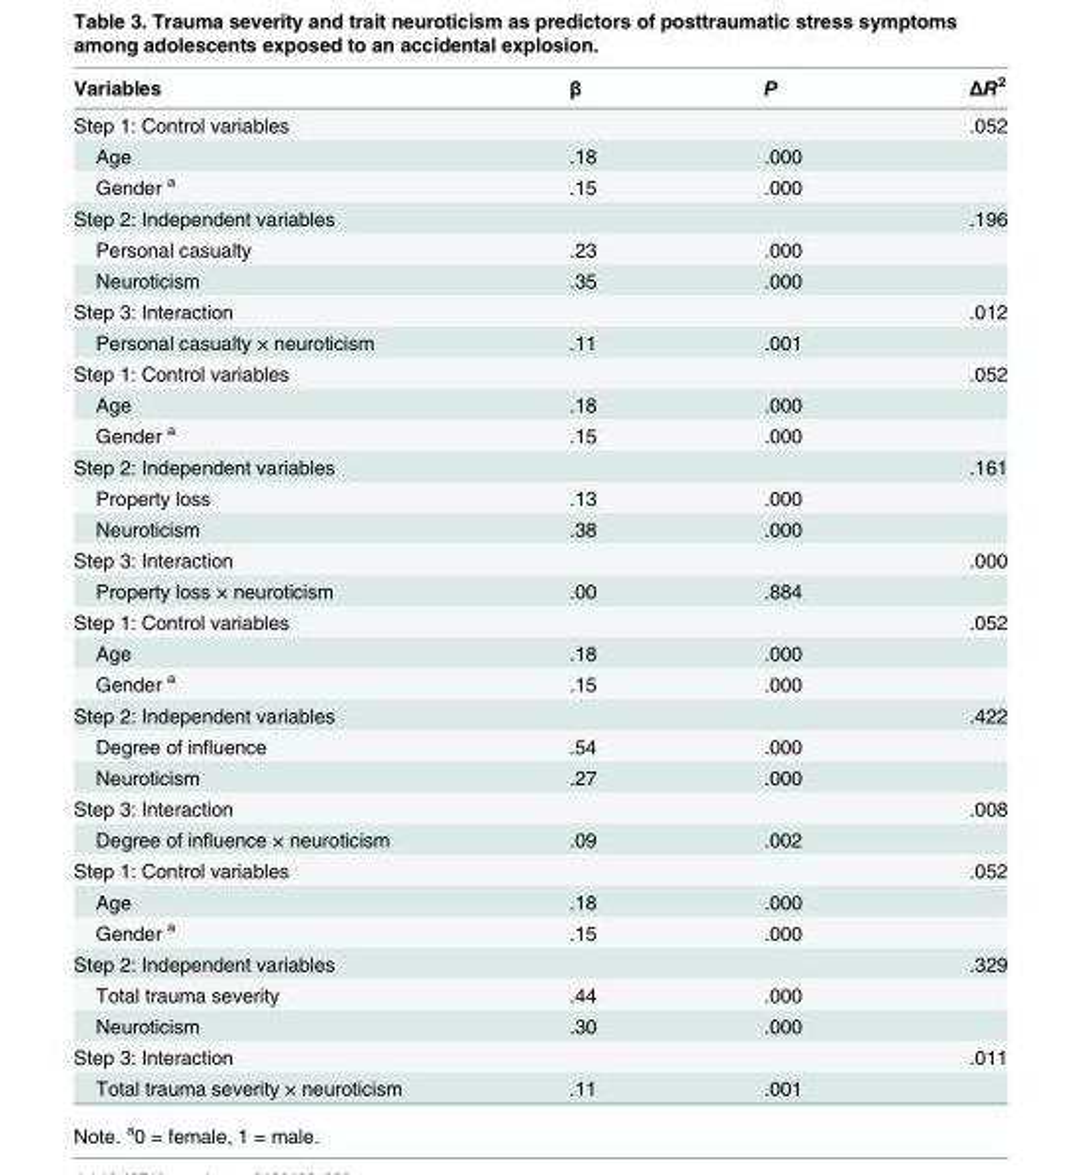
<table><thead><tr><td>Variables</td><td>β</td><td>P</td><td>ΔR<sup>2</sup></td></tr></thead><tbody><tr><td>Step 1: Control variables</td><td></td><td></td><td>.052</td></tr><tr><td>Age</td><td>.18</td><td>.000</td><td></td></tr><tr><td>Gender <sup>a</sup></td><td>.15</td><td>.000</td><td></td></tr><tr><td>Step 2: Independent variables</td><td></td><td></td><td>.196</td></tr><tr><td>Personal casualty</td><td>.23</td><td>.000</td><td></td></tr><tr><td>Neuroticism</td><td>.35</td><td>.000</td><td></td></tr><tr><td>Step 3: Interaction</td><td></td><td></td><td>.012</td></tr><tr><td>Personal casualty × neuroticism</td><td>.11</td><td>.001</td><td></td></tr><tr><td>Step 1: Control variables</td><td></td><td></td><td>.052</td></tr><tr><td>Age</td><td>.18</td><td>.000</td><td></td></tr><tr><td>Gender <sup>a</sup></td><td>.15</td><td>.000</td><td></td></tr><tr><td>Step 2: Independent variables</td><td></td><td></td><td>.161</td></tr><tr><td>Property loss</td><td>.13</td><td>.000</td><td></td></tr><tr><td>Neuroticism</td><td>.38</td><td>.000</td><td></td></tr><tr><td>Step 3: Interaction</td><td></td><td></td><td>.000</td></tr><tr><td>Property loss × neuroticism</td><td>.00</td><td>.884</td><td></td></tr><tr><td>Step 1: Control variables</td><td></td><td></td><td>.052</td></tr><tr><td>Age</td><td>.18</td><td>.000</td><td></td></tr><tr><td>Gender <sup>a</sup></td><td>.15</td><td>.000</td><td></td></tr><tr><td>Step 2: Independent variables</td><td></td><td></td><td>.422</td></tr><tr><td>Degree of influence</td><td>.54</td><td>.000</td><td></td></tr><tr><td>Neuroticism</td><td>.27</td><td>.000</td><td></td></tr><tr><td>Step 3: Interaction</td><td></td><td></td><td>.008</td></tr><tr><td>Degree of influence × neuroticism</td><td>.09</td><td>.002</td><td></td></tr><tr><td>Step 1: Control variables</td><td></td><td></td><td>.052</td></tr><tr><td>Age</td><td>.18</td><td>.000</td><td></td></tr><tr><td>Gender <sup>a</sup></td><td>.15</td><td>.000</td><td></td></tr><tr><td>Step 2: Independent variables</td><td></td><td></td><td>.329</td></tr><tr><td>Total trauma severity</td><td>.44</td><td>.000</td><td></td></tr><tr><td>Neuroticism</td><td>.30</td><td>.000</td><td></td></tr><tr><td>Step 3: Interaction</td><td></td><td></td><td>.011</td></tr><tr><td>Total trauma severity × neuroticism</td><td>.11</td><td>.001</td><td></td></tr></tbody></table>